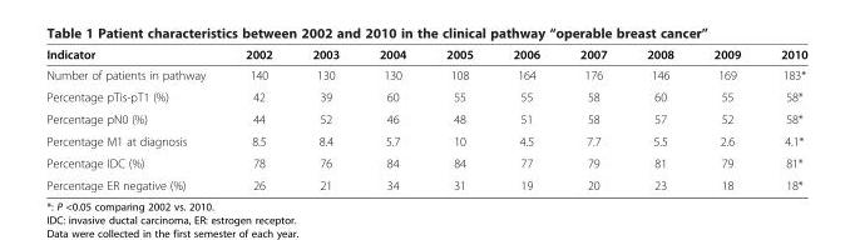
<table><thead><tr><td>Indicator</td><td>2002</td><td>2003</td><td>2004</td><td>2005</td><td>2006</td><td>2007</td><td>2008</td><td>2009</td><td>2010</td></tr></thead><tbody><tr><td>Number of patients in pathway</td><td>140</td><td>130</td><td>130</td><td>108</td><td>164</td><td>176</td><td>146</td><td>169</td><td>183*</td></tr><tr><td>Percentage pTis-pT1 (%)</td><td>42</td><td>39</td><td>60</td><td>55</td><td>55</td><td>58</td><td>60</td><td>55</td><td>58*</td></tr><tr><td>Percentage pN0 (%)</td><td>44</td><td>52</td><td>46</td><td>48</td><td>51</td><td>58</td><td>57</td><td>52</td><td>58*</td></tr><tr><td>Percentage M1 at diagnosis</td><td>8.5</td><td>8.4</td><td>5.7</td><td>10</td><td>4.5</td><td>7.7</td><td>5.5</td><td>2.6</td><td>4.1*</td></tr><tr><td>Percentage IDC (%)</td><td>78</td><td>76</td><td>84</td><td>84</td><td>77</td><td>79</td><td>81</td><td>79</td><td>81*</td></tr><tr><td>Percentage ER negative (%)</td><td>26</td><td>21</td><td>34</td><td>31</td><td>19</td><td>20</td><td>23</td><td>18</td><td>18*</td></tr></tbody></table>